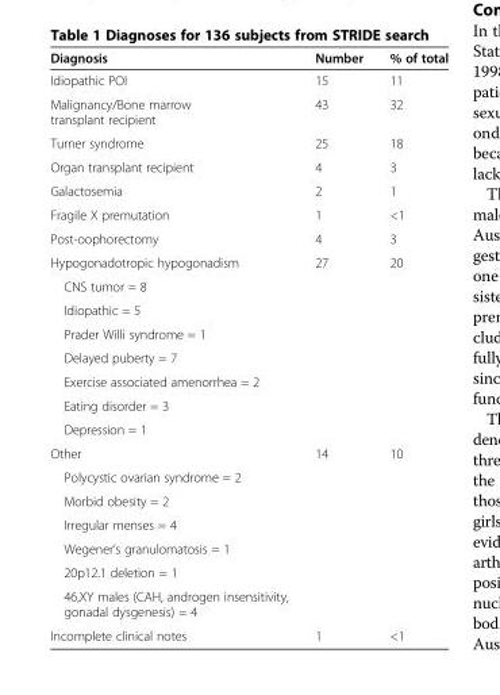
<table><thead><tr><td>Diagnosis</td><td>Number</td><td>% of total</td></tr></thead><tbody><tr><td>Idiopathic POI</td><td>15</td><td>11</td></tr><tr><td>Malignancy/Bone marrow transplant recipient</td><td>43</td><td>32</td></tr><tr><td>Turner syndrome</td><td>25</td><td>18</td></tr><tr><td>Organ transplant recipient</td><td>4</td><td>3</td></tr><tr><td>Galactosemia</td><td>2</td><td>1</td></tr><tr><td>Fragile X premutation</td><td>1</td><td>&lt;1</td></tr><tr><td>Post-oophorectomy</td><td>4</td><td>3</td></tr><tr><td>Hypogonadotropic hypogonadism</td><td>27</td><td>20</td></tr><tr><td colspan="3">CNS tumor = 8</td></tr><tr><td colspan="3">Idiopathic = 5</td></tr><tr><td colspan="3">Prader Willi syndrome = 1</td></tr><tr><td colspan="3">Delayed puberty = 7</td></tr><tr><td colspan="3">Exercise associated amenorrhea = 2</td></tr><tr><td colspan="3">Eating disorder = 3</td></tr><tr><td colspan="3">Depression = 1</td></tr><tr><td>Other</td><td>14</td><td>10</td></tr><tr><td colspan="3">Polycystic ovarian syndrome = 2</td></tr><tr><td colspan="3">Morbid obesity = 2</td></tr><tr><td colspan="3">Irregular menses = 4</td></tr><tr><td colspan="3">Wegener’s granulomatosis = 1</td></tr><tr><td colspan="3">20p12.1 deletion = 1</td></tr><tr><td colspan="3">46,XY males (CAH, androgen insensitivity, gonadal dysgenesis) = 4</td></tr><tr><td>Incomplete clinical notes</td><td>1</td><td>&lt;1</td></tr></tbody></table>